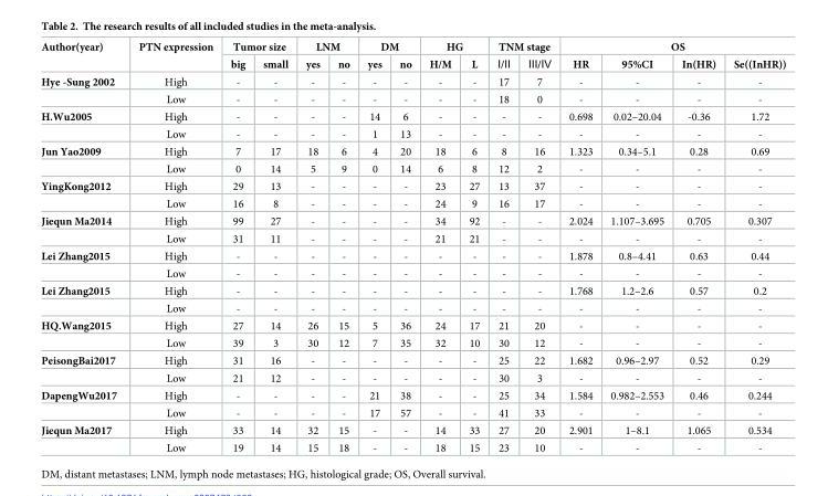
<table><thead><tr><td rowspan="2">Author(year)</td><td rowspan="2">PTN expression</td><td colspan="2">Tumor size</td><td colspan="2">LNM</td><td colspan="2">DM</td><td colspan="2">HG</td><td colspan="2">TNM stage</td><td colspan="4">OS</td></tr><tr><td>big</td><td>small</td><td>yes</td><td>no</td><td>yes</td><td>no</td><td>H/M</td><td>L</td><td>Ⅰ/Ⅱ</td><td>Ⅲ/Ⅳ</td><td>HR</td><td>95%CI</td><td>In(HR)</td><td>Se((InHR))</td></tr></thead><tbody><tr><td rowspan="2">Hye -Sung 2002</td><td>High</td><td>-</td><td>-</td><td>-</td><td>-</td><td>-</td><td>-</td><td>-</td><td>-</td><td>17</td><td>7</td><td>-</td><td>-</td><td>-</td><td>-</td></tr><tr><td>Low</td><td>-</td><td>-</td><td>-</td><td>-</td><td>-</td><td>-</td><td>-</td><td>-</td><td>18</td><td>0</td><td>-</td><td>-</td><td>-</td><td>-</td></tr><tr><td rowspan="2">H.Wu2005</td><td>High</td><td>-</td><td>-</td><td>-</td><td>-</td><td>14</td><td>6</td><td>-</td><td>-</td><td>-</td><td>-</td><td>0.698</td><td>0.02–20.04</td><td>-0.36</td><td>1.72</td></tr><tr><td>Low</td><td>-</td><td>-</td><td>-</td><td>-</td><td>1</td><td>13</td><td>-</td><td>-</td><td>-</td><td>-</td><td>-</td><td>-</td><td>-</td><td>-</td></tr><tr><td rowspan="2">Jun Yao2009</td><td>High</td><td>7</td><td>17</td><td>18</td><td>6</td><td>4</td><td>20</td><td>18</td><td>6</td><td>8</td><td>16</td><td>1.323</td><td>0.34–5.1</td><td>0.28</td><td>0.69</td></tr><tr><td>Low</td><td>0</td><td>14</td><td>5</td><td>9</td><td>0</td><td>14</td><td>6</td><td>8</td><td>12</td><td>2</td><td>-</td><td>-</td><td>-</td><td>-</td></tr><tr><td rowspan="2">YingKong2012</td><td>High</td><td>29</td><td>13</td><td>-</td><td>-</td><td>-</td><td>-</td><td>23</td><td>27</td><td>13</td><td>37</td><td>-</td><td>-</td><td>-</td><td>-</td></tr><tr><td>Low</td><td>16</td><td>8</td><td>-</td><td>-</td><td>-</td><td>-</td><td>24</td><td>9</td><td>16</td><td>17</td><td>-</td><td>-</td><td>-</td><td>-</td></tr><tr><td rowspan="2">Jiequn Ma2014</td><td>High</td><td>99</td><td>27</td><td>-</td><td>-</td><td>-</td><td>-</td><td>34</td><td>92</td><td>-</td><td>-</td><td>2.024</td><td>1.107–3.695</td><td>0.705</td><td>0.307</td></tr><tr><td>Low</td><td>31</td><td>11</td><td>-</td><td>-</td><td>-</td><td>-</td><td>21</td><td>21</td><td>-</td><td>-</td><td>-</td><td>-</td><td>-</td><td>-</td></tr><tr><td rowspan="2">Lei Zhang2015</td><td>High</td><td>-</td><td>-</td><td>-</td><td>-</td><td>-</td><td>-</td><td>-</td><td>-</td><td>-</td><td>-</td><td>1.878</td><td>0.8–4.41</td><td>0.63</td><td>0.44</td></tr><tr><td>Low</td><td>-</td><td>-</td><td>-</td><td>-</td><td>-</td><td>-</td><td>-</td><td>-</td><td>-</td><td>-</td><td>-</td><td>-</td><td>-</td><td>-</td></tr><tr><td rowspan="2">Lei Zhang2015</td><td>High</td><td>-</td><td>-</td><td>-</td><td>-</td><td>-</td><td>-</td><td>-</td><td>-</td><td>-</td><td>-</td><td>1.768</td><td>1.2–2.6</td><td>0.57</td><td>0.2</td></tr><tr><td>Low</td><td>-</td><td>-</td><td>-</td><td>-</td><td>-</td><td>-</td><td>-</td><td>-</td><td>-</td><td>-</td><td>-</td><td>-</td><td>-</td><td>-</td></tr><tr><td rowspan="2">HQ.Wang2015</td><td>High</td><td>27</td><td>14</td><td>26</td><td>15</td><td>5</td><td>36</td><td>24</td><td>17</td><td>21</td><td>20</td><td>-</td><td>-</td><td>-</td><td>-</td></tr><tr><td>Low</td><td>39</td><td>3</td><td>30</td><td>12</td><td>7</td><td>35</td><td>32</td><td>10</td><td>30</td><td>12</td><td>-</td><td>-</td><td>-</td><td>-</td></tr><tr><td rowspan="2">PeisongBai2017</td><td>High</td><td>31</td><td>16</td><td>-</td><td>-</td><td>-</td><td>-</td><td>-</td><td>-</td><td>25</td><td>22</td><td>1.682</td><td>0.96–2.97</td><td>0.52</td><td>0.29</td></tr><tr><td>Low</td><td>21</td><td>12</td><td>-</td><td>-</td><td>-</td><td>-</td><td>-</td><td>-</td><td>30</td><td>3</td><td>-</td><td>-</td><td>-</td><td>-</td></tr><tr><td rowspan="2">DapengWu2017</td><td>High</td><td>-</td><td>-</td><td>-</td><td>-</td><td>21</td><td>38</td><td>-</td><td>-</td><td>25</td><td>34</td><td>1.584</td><td>0.982–2.553</td><td>0.46</td><td>0.244</td></tr><tr><td>Low</td><td>-</td><td>-</td><td>-</td><td>-</td><td>17</td><td>57</td><td>-</td><td>-</td><td>41</td><td>33</td><td>-</td><td>-</td><td>-</td><td>-</td></tr><tr><td rowspan="2">Jiequn Ma2017</td><td>High</td><td>33</td><td>14</td><td>32</td><td>15</td><td>-</td><td>-</td><td>14</td><td>33</td><td>27</td><td>20</td><td>2.901</td><td>1–8.1</td><td>1.065</td><td>0.534</td></tr><tr><td>Low</td><td>19</td><td>14</td><td>15</td><td>18</td><td>-</td><td>-</td><td>18</td><td>15</td><td>23</td><td>10</td><td>-</td><td>-</td><td>-</td><td>-</td></tr></tbody></table>